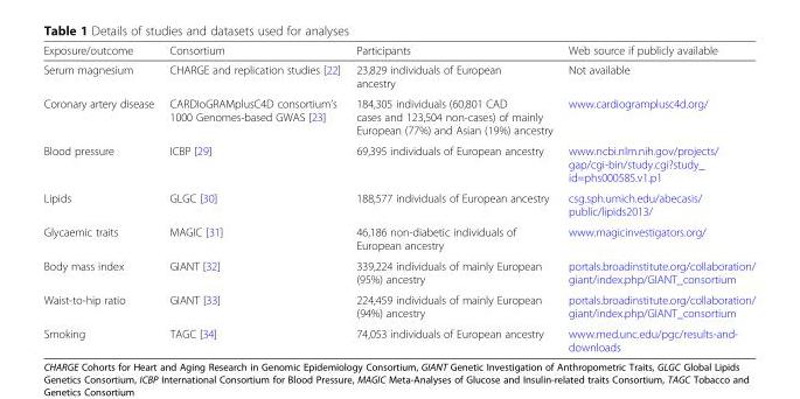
<table><thead><tr><td>Exposure/outcome</td><td>Consortium</td><td>Participants</td><td>Web source if publicly available</td></tr></thead><tbody><tr><td>Serum magnesium</td><td>CHARGE and replication studies [22]</td><td>23,829 individuals of European ancestry</td><td>Not available</td></tr><tr><td>Coronary artery disease</td><td>CARDIoGRAMplusC4D consortium’s 1000 Genomes-based GWAS [23]</td><td>184,305 individuals (60,801 CAD cases and 123,504 non-cases) of mainly European (77%) and Asian (19%) ancestry</td><td>www.cardiogramplusc4d.org/</td></tr><tr><td>Blood pressure</td><td>ICBP [29]</td><td>69,395 individuals of European ancestry</td><td>www.ncbi.nlm.nih.gov/projects/ gap/cgi-bin/study.cgi?study_ id=phs000585.v1.p1</td></tr><tr><td>Lipids</td><td>GLGC [30]</td><td>188,577 individuals of European ancestry</td><td>csg.sph.umich.edu/abecasis/ public/lipids2013/</td></tr><tr><td>Glycaemic traits</td><td>MAGIC [31]</td><td>46,186 non-diabetic individuals of European ancestry</td><td>www.magicinvestigators.org/</td></tr><tr><td>Body mass index</td><td>GIANT [32]</td><td>339,224 individuals of mainly European (95%) ancestry</td><td>portals.broadinstitute.org/collaboration/ giant/index.php/GIANT_consortium</td></tr><tr><td>Waist-to-hip ratio</td><td>GIANT [33]</td><td>224,459 individuals of mainly European (94%) ancestry</td><td>portals.broadinstitute.org/collaboration/ giant/index.php/GIANT_consortium</td></tr><tr><td>Smoking</td><td>TAGC [34]</td><td>74,053 individuals of European ancestry</td><td>www.med.unc.edu/pgc/results-and- downloads</td></tr></tbody></table>